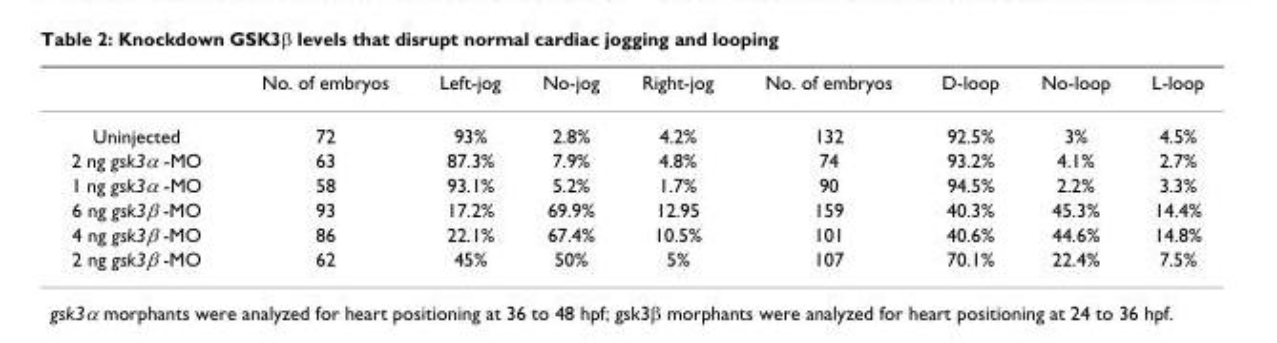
<table><thead><tr><td></td><td>No. of embryos</td><td>Left-jog</td><td>No-jog</td><td>Right-jog</td><td>No. of embryos</td><td>D-loop</td><td>No-loop</td><td>L-loop</td></tr></thead><tbody><tr><td>Uninjected</td><td>72</td><td>93%</td><td>2.8%</td><td>4.2%</td><td>132</td><td>92.5%</td><td>3%</td><td>4.5%</td></tr><tr><td>2 ng gsk3α -MO</td><td>63</td><td>87.3%</td><td>7.9%</td><td>4.8%</td><td>74</td><td>93.2%</td><td>4.1%</td><td>2.7%</td></tr><tr><td>1 ng gsk3α -MO</td><td>58</td><td>93.1%</td><td>5.2%</td><td>1.7%</td><td>90</td><td>94.5%</td><td>2.2%</td><td>3.3%</td></tr><tr><td>6 ng gsk3β -MO</td><td>93</td><td>17.2%</td><td>69.9%</td><td>12.95</td><td>159</td><td>40.3%</td><td>45.3%</td><td>14.4%</td></tr><tr><td>4 ng gsk3β -MO</td><td>86</td><td>22.1%</td><td>67.4%</td><td>10.5%</td><td>101</td><td>40.6%</td><td>44.6%</td><td>14.8%</td></tr><tr><td>2 ng gsk3β -MO</td><td>62</td><td>45%</td><td>50%</td><td>5%</td><td>107</td><td>70.1%</td><td>22.4%</td><td>7.5%</td></tr></tbody></table>